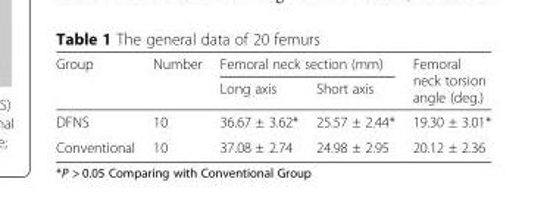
<table><thead><tr><td rowspan="2">Group</td><td rowspan="2">Number</td><td colspan="2">Femoral neck section (mm)</td><td rowspan="2">Femoral neck torsion angle (deg.)</td></tr><tr><td>Long axis</td><td>Short axis</td></tr></thead><tbody><tr><td>DFNS</td><td>10</td><td>36.67 ± 3.62*</td><td>25.57 ± 2.44*</td><td>19.30 ± 3.01*</td></tr><tr><td>Conventional</td><td>10</td><td>37.08 ± 2.74</td><td>24.98 ± 2.95</td><td>20.12 ± 2.36</td></tr></tbody></table>